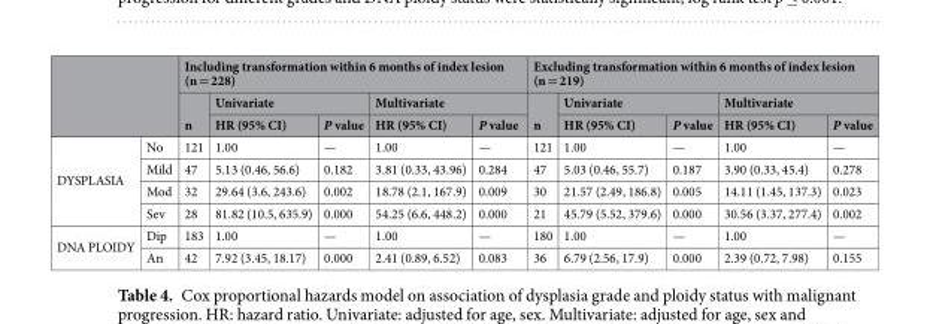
<table><thead><tr><td rowspan="3"></td><td rowspan="3"></td><td colspan="5">Including transformation within 6 months of index lesion (n = 228)</td><td colspan="5">Excluding transformation within 6 months of index lesion (n = 219)</td></tr><tr><td rowspan="2">n</td><td colspan="2">Univariate</td><td colspan="2">Multivariate</td><td rowspan="2">n</td><td colspan="2">Univariate</td><td colspan="2">Multivariate</td></tr><tr><td>HR (95% CI)</td><td>P value</td><td>HR (95% CI)</td><td>P value</td><td>HR (95% CI)</td><td>P value</td><td>HR (95% CI)</td><td>P value</td></tr></thead><tbody><tr><td rowspan="4">DYSPLASIA</td><td>No</td><td>121</td><td>1.00</td><td>—</td><td>1.00</td><td>—</td><td>121</td><td>1.00</td><td>—</td><td>1.00</td><td>—</td></tr><tr><td>Mild</td><td>47</td><td>5.13 (0.46, 56.6)</td><td>0.182</td><td>3.81 (0.33, 43.96)</td><td>0.284</td><td>47</td><td>5.03 (0.46, 55.7)</td><td>0.187</td><td>3.90 (0.33, 45.4)</td><td>0.278</td></tr><tr><td>Mod</td><td>32</td><td>29.64 (3.6, 243.6)</td><td>0.002</td><td>18.78 (2.1, 167.9)</td><td>0.009</td><td>30</td><td>21.57 (2.49, 186.8)</td><td>0.005</td><td>14.11 (1.45, 137.3)</td><td>0.023</td></tr><tr><td>Sev</td><td>28</td><td>81.82 (10.5, 635.9)</td><td>0.000</td><td>54.25 (6.6, 448.2)</td><td>0.000</td><td>21</td><td>45.79 (5.52, 379.6)</td><td>0.000</td><td>30.56 (3.37, 277.4)</td><td>0.002</td></tr><tr><td rowspan="2">DNA PLOIDY</td><td>Dip</td><td>183</td><td>1.00</td><td>—</td><td>1.00</td><td>—</td><td>180</td><td>1.00</td><td>—</td><td>1.00</td><td>—</td></tr><tr><td>An</td><td>42</td><td>7.92 (3.45, 18.17)</td><td>0.000</td><td>2.41 (0.89, 6.52)</td><td>0.083</td><td>36</td><td>6.79 (2.56, 17.9)</td><td>0.000</td><td>2.39 (0.72, 7.98)</td><td>0.155</td></tr></tbody></table>